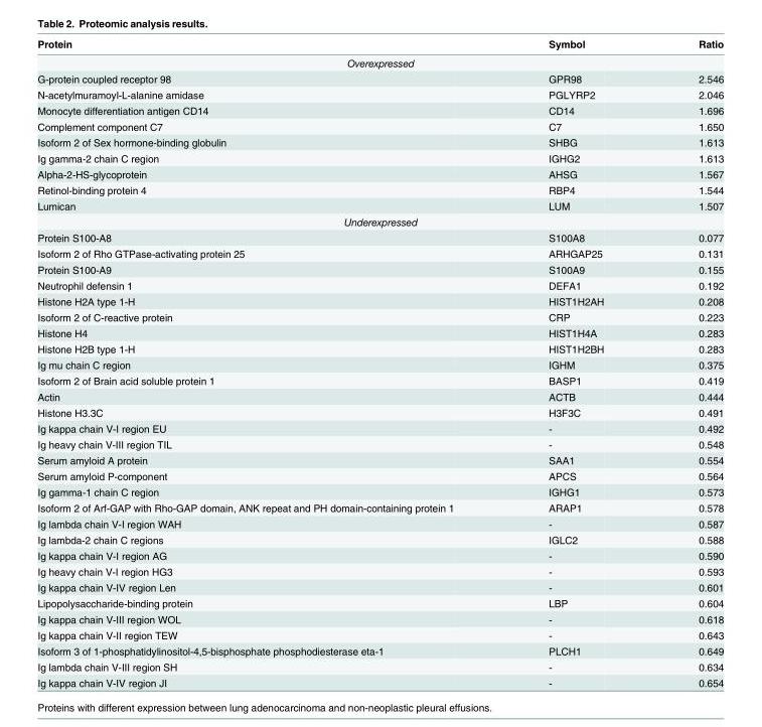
<table><thead><tr><td>Protein</td><td>Symbol</td><td>Ratio</td></tr></thead><tbody><tr><td colspan="3">Overexpressed</td></tr><tr><td>G-protein coupled receptor 98</td><td>GPR98</td><td>2.546</td></tr><tr><td>N-acetylmuramoyl-L-alanine amidase</td><td>PGLYRP2</td><td>2.046</td></tr><tr><td>Monocyte differentiation antigen CD14</td><td>CD14</td><td>1.696</td></tr><tr><td>Complement component C7</td><td>C7</td><td>1.650</td></tr><tr><td>Isoform 2 of Sex hormone-binding globulin</td><td>SHBG</td><td>1.613</td></tr><tr><td>Ig gamma-2 chain C region</td><td>IGHG2</td><td>1.613</td></tr><tr><td>Alpha-2-HS-glycoprotein</td><td>AHSG</td><td>1.567</td></tr><tr><td>Retinol-binding protein 4</td><td>RBP4</td><td>1.544</td></tr><tr><td>Lumican</td><td>LUM</td><td>1.507</td></tr><tr><td colspan="3">Underexpressed</td></tr><tr><td>Protein S100-A8</td><td>S100A8</td><td>0.077</td></tr><tr><td>Isoform 2 of Rho GTPase-activating protein 25</td><td>ARHGAP25</td><td>0.131</td></tr><tr><td>Protein S100-A9</td><td>S100A9</td><td>0.155</td></tr><tr><td>Neutrophil defensin 1</td><td>DEFA1</td><td>0.192</td></tr><tr><td>Histone H2A type 1-H</td><td>HIST1H2AH</td><td>0.208</td></tr><tr><td>Isoform 2 of C-reactive protein</td><td>CRP</td><td>0.223</td></tr><tr><td>Histone H4</td><td>HIST1H4A</td><td>0.283</td></tr><tr><td>Histone H2B type 1-H</td><td>HIST1H2BH</td><td>0.283</td></tr><tr><td>Ig mu chain C region</td><td>IGHM</td><td>0.375</td></tr><tr><td>Isoform 2 of Brain acid soluble protein 1</td><td>BASP1</td><td>0.419</td></tr><tr><td>Actin</td><td>ACTB</td><td>0.444</td></tr><tr><td>Histone H3.3C</td><td>H3F3C</td><td>0.491</td></tr><tr><td>Ig kappa chain V-I region EU</td><td>-</td><td>0.492</td></tr><tr><td>Ig heavy chain V-III region TIL</td><td>-</td><td>0.548</td></tr><tr><td>Serum amyloid A protein</td><td>SAA1</td><td>0.554</td></tr><tr><td>Serum amyloid P-component</td><td>APCS</td><td>0.564</td></tr><tr><td>Ig gamma-1 chain C region</td><td>IGHG1</td><td>0.573</td></tr><tr><td>Isoform 2 of Arf-GAP with Rho-GAP domain, ANK repeat and PH domain-containing protein 1</td><td>ARAP1</td><td>0.578</td></tr><tr><td>Ig lambda chain V-I region WAH</td><td>-</td><td>0.587</td></tr><tr><td>Ig lambda-2 chain C regions</td><td>IGLC2</td><td>0.588</td></tr><tr><td>Ig kappa chain V-I region AG</td><td>-</td><td>0.590</td></tr><tr><td>Ig heavy chain V-I region HG3</td><td>-</td><td>0.593</td></tr><tr><td>Ig kappa chain V-IV region Len</td><td>-</td><td>0.601</td></tr><tr><td>Lipopolysaccharide-binding protein</td><td>LBP</td><td>0.604</td></tr><tr><td>Ig kappa chain V-III region WOL</td><td>-</td><td>0.618</td></tr><tr><td>Ig kappa chain V-II region TEW</td><td>-</td><td>0.643</td></tr><tr><td>Isoform 3 of 1-phosphatidylinositol-4,5-bisphosphate phosphodiesterase eta-1</td><td>PLCH1</td><td>0.649</td></tr><tr><td>Ig lambda chain V-III region SH</td><td>-</td><td>0.634</td></tr><tr><td>Ig kappa chain V-IV region JI</td><td>-</td><td>0.654</td></tr></tbody></table>